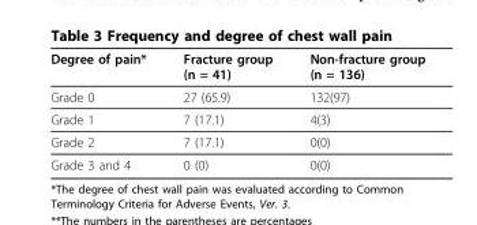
<table><thead><tr><td>Degree of pain*</td><td>Fracture group (n = 41)</td><td>Non-fracture group (n = 136)</td></tr></thead><tbody><tr><td>Grade 0</td><td>27 (65.9)</td><td>132(97)</td></tr><tr><td>Grade 1</td><td>7 (17.1)</td><td>4(3)</td></tr><tr><td>Grade 2</td><td>7 (17.1)</td><td>0(0)</td></tr><tr><td>Grade 3 and 4</td><td>0 (0)</td><td>0(0)</td></tr></tbody></table>